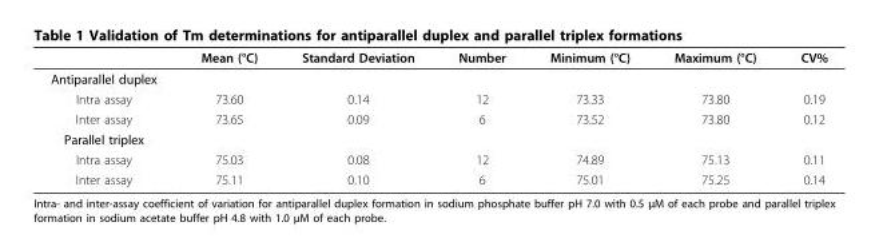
<table><thead><tr><td></td><td>Mean (°C)</td><td>Standard Deviation</td><td>Number</td><td>Minimum (°C)</td><td>Maximum (°C)</td><td>CV%</td></tr></thead><tbody><tr><td colspan="7">Antiparallel duplex</td></tr><tr><td>Intra assay</td><td>73.60</td><td>0.14</td><td>12</td><td>73.33</td><td>73.80</td><td>0.19</td></tr><tr><td>Inter assay</td><td>73.65</td><td>0.09</td><td>6</td><td>73.52</td><td>73.80</td><td>0.12</td></tr><tr><td colspan="7">Parallel triplex</td></tr><tr><td>Intra assay</td><td>75.03</td><td>0.08</td><td>12</td><td>74.89</td><td>75.13</td><td>0.11</td></tr><tr><td>Inter assay</td><td>75.11</td><td>0.10</td><td>6</td><td>75.01</td><td>75.25</td><td>0.14</td></tr></tbody></table>